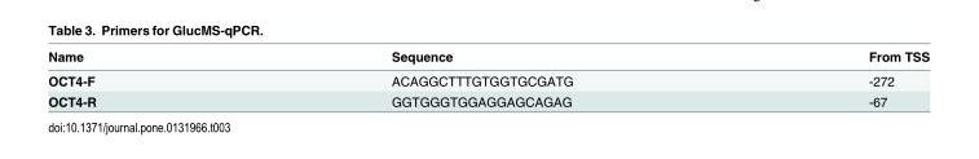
<table><thead><tr><td>Name</td><td>Sequence</td><td>From TSS</td></tr></thead><tbody><tr><td>OCT4-F</td><td>ACAGGCTTTGTGGTGCGATG</td><td>-272</td></tr><tr><td>OCT4-R</td><td>GGTGGGTGGAGGAGCAGAG</td><td>-67</td></tr></tbody></table>